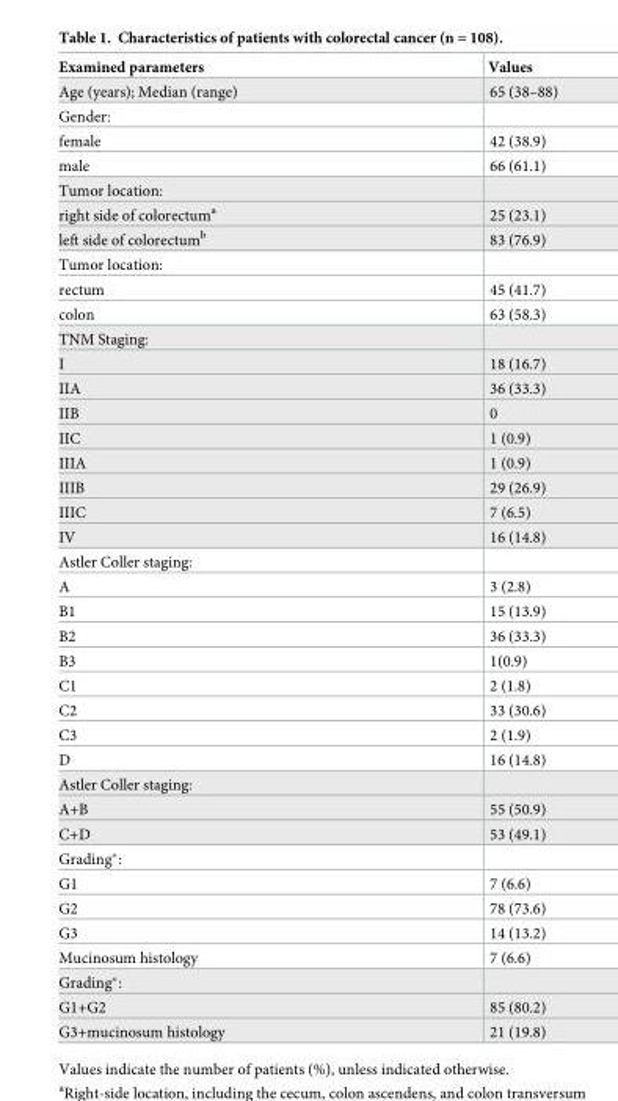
<table><thead><tr><td>Examined parameters</td><td>Values</td></tr></thead><tbody><tr><td>Age (years); Median (range)</td><td>65 (38–88)</td></tr><tr><td colspan="2">Gender:</td></tr><tr><td>female</td><td>42 (38.9)</td></tr><tr><td>male</td><td>66 (61.1)</td></tr><tr><td colspan="2">Tumor location:</td></tr><tr><td>right side of colorectum<sup>a</sup></td><td>25 (23.1)</td></tr><tr><td>left side of colorectum<sup>b</sup></td><td>83 (76.9)</td></tr><tr><td colspan="2">Tumor location:</td></tr><tr><td>rectum</td><td>45 (41.7)</td></tr><tr><td>colon</td><td>63 (58.3)</td></tr><tr><td colspan="2">TNM Staging:</td></tr><tr><td>I</td><td>18 (16.7)</td></tr><tr><td>IIA</td><td>36 (33.3)</td></tr><tr><td>IIB</td><td>0</td></tr><tr><td>IIC</td><td>1 (0.9)</td></tr><tr><td>IIIA</td><td>1 (0.9)</td></tr><tr><td>IIIB</td><td>29 (26.9)</td></tr><tr><td>IIIC</td><td>7 (6.5)</td></tr><tr><td>IV</td><td>16 (14.8)</td></tr><tr><td colspan="2">Astler Coller staging:</td></tr><tr><td>A</td><td>3 (2.8)</td></tr><tr><td>B1</td><td>15 (13.9)</td></tr><tr><td>B2</td><td>36 (33.3)</td></tr><tr><td>B3</td><td>1(0.9)</td></tr><tr><td>C1</td><td>2 (1.8)</td></tr><tr><td>C2</td><td>33 (30.6)</td></tr><tr><td>C3</td><td>2 (1.9)</td></tr><tr><td>D</td><td>16 (14.8)</td></tr><tr><td colspan="2">Astler Coller staging:</td></tr><tr><td>A+B</td><td>55 (50.9)</td></tr><tr><td>C+D</td><td>53 (49.1)</td></tr><tr><td colspan="2">Grading*:</td></tr><tr><td>G1</td><td>7 (6.6)</td></tr><tr><td>G2</td><td>78 (73.6)</td></tr><tr><td>G3</td><td>14 (13.2)</td></tr><tr><td>Mucinosum histology</td><td>7 (6.6)</td></tr><tr><td colspan="2">Grading*:</td></tr><tr><td>G1+G2</td><td>85 (80.2)</td></tr><tr><td>G3+mucinosum histology</td><td>21 (19.8)</td></tr></tbody></table>